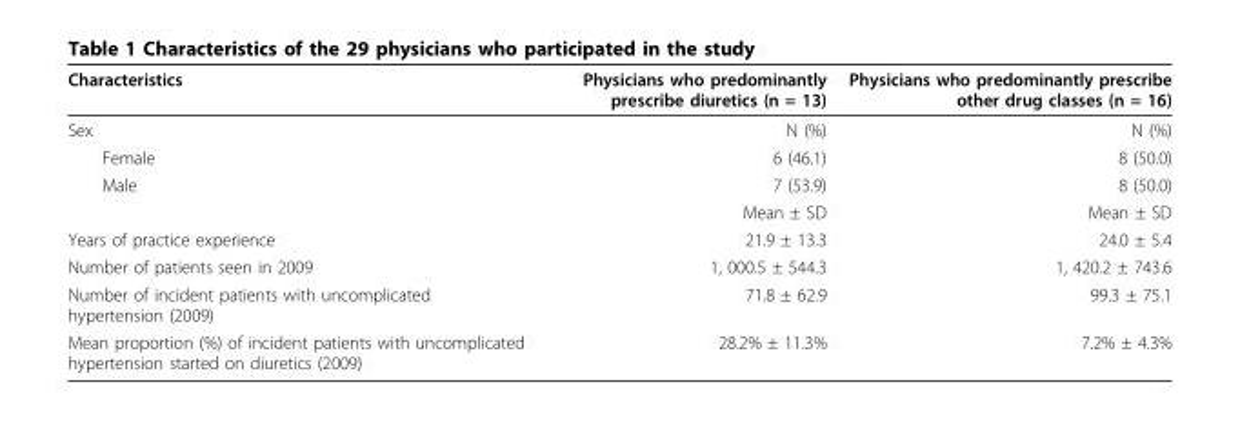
<table><thead><tr><td>Characteristics</td><td>Physicians who predominantly prescribe diuretics (n = 13)</td><td>Physicians who predominantly prescribe other drug classes (n = 16)</td></tr></thead><tbody><tr><td>Sex</td><td>N (%)</td><td>N (%)</td></tr><tr><td>Female</td><td>6 (46.1)</td><td>8 (50.0)</td></tr><tr><td rowspan="2">Male</td><td>7 (53.9)</td><td>8 (50.0)</td></tr><tr><td>Mean ± SD</td><td>Mean ± SD</td></tr><tr><td>Years of practice experience</td><td>21.9 ± 13.3</td><td>24.0 ± 5.4</td></tr><tr><td>Number of patients seen in 2009</td><td>1, 000.5 ± 544.3</td><td>1, 420.2 ± 743.6</td></tr><tr><td>Number of incident patients with uncomplicated hypertension (2009)</td><td>71.8 ± 62.9</td><td>99.3 ± 75.1</td></tr><tr><td>Mean proportion (%) of incident patients with uncomplicated hypertension started on diuretics (2009)</td><td>28.2% ± 11.3%</td><td>7.2% ± 4.3%</td></tr></tbody></table>